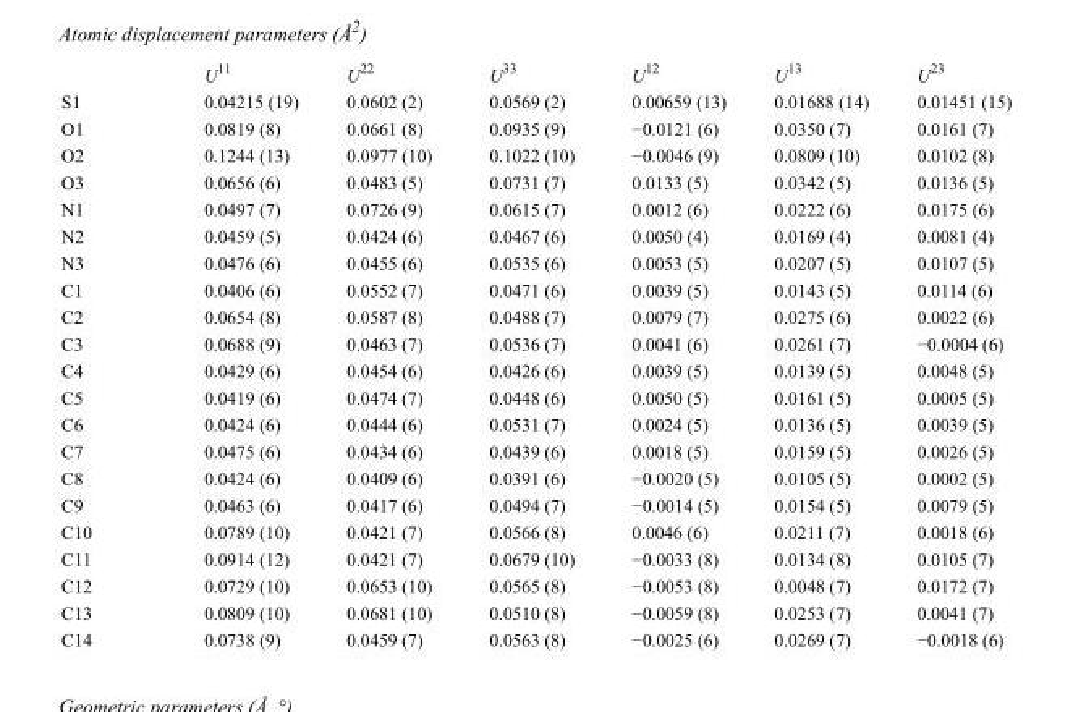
<table><thead><tr><td></td><td>U<sup>11</sup></td><td>U<sup>22</sup></td><td>U<sup>33</sup></td><td>U<sup>12</sup></td><td>U<sup>13</sup></td><td>U<sup>23</sup></td></tr></thead><tbody><tr><td>S1</td><td>0.04215 (19)</td><td>0.0602 (2)</td><td>0.0569 (2)</td><td>0.00659 (13)</td><td>0.01688 (14)</td><td>0.01451 (15)</td></tr><tr><td>O1</td><td>0.0819 (8)</td><td>0.0661 (8)</td><td>0.0935 (9)</td><td>−0.0121 (6)</td><td>0.0350 (7)</td><td>0.0161 (7)</td></tr><tr><td>O2</td><td>0.1244 (13)</td><td>0.0977 (10)</td><td>0.1022 (10)</td><td>−0.0046 (9)</td><td>0.0809 (10)</td><td>0.0102 (8)</td></tr><tr><td>O3</td><td>0.0656 (6)</td><td>0.0483 (5)</td><td>0.0731 (7)</td><td>0.0133 (5)</td><td>0.0342 (5)</td><td>0.0136 (5)</td></tr><tr><td>N1</td><td>0.0497 (7)</td><td>0.0726 (9)</td><td>0.0615 (7)</td><td>0.0012 (6)</td><td>0.0222 (6)</td><td>0.0175 (6)</td></tr><tr><td>N2</td><td>0.0459 (5)</td><td>0.0424 (6)</td><td>0.0467 (6)</td><td>0.0050 (4)</td><td>0.0169 (4)</td><td>0.0081 (4)</td></tr><tr><td>N3</td><td>0.0476 (6)</td><td>0.0455 (6)</td><td>0.0535 (6)</td><td>0.0053 (5)</td><td>0.0207 (5)</td><td>0.0107 (5)</td></tr><tr><td>C1</td><td>0.0406 (6)</td><td>0.0552 (7)</td><td>0.0471 (6)</td><td>0.0039 (5)</td><td>0.0143 (5)</td><td>0.0114 (6)</td></tr><tr><td>C2</td><td>0.0654 (8)</td><td>0.0587 (8)</td><td>0.0488 (7)</td><td>0.0079 (7)</td><td>0.0275 (6)</td><td>0.0022 (6)</td></tr><tr><td>C3</td><td>0.0688 (9)</td><td>0.0463 (7)</td><td>0.0536 (7)</td><td>0.0041 (6)</td><td>0.0261 (7)</td><td>−0.0004 (6)</td></tr><tr><td>C4</td><td>0.0429 (6)</td><td>0.0454 (6)</td><td>0.0426 (6)</td><td>0.0039 (5)</td><td>0.0139 (5)</td><td>0.0048 (5)</td></tr><tr><td>C5</td><td>0.0419 (6)</td><td>0.0474 (7)</td><td>0.0448 (6)</td><td>0.0050 (5)</td><td>0.0161 (5)</td><td>0.0005 (5)</td></tr><tr><td>C6</td><td>0.0424 (6)</td><td>0.0444 (6)</td><td>0.0531 (7)</td><td>0.0024 (5)</td><td>0.0136 (5)</td><td>0.0039 (5)</td></tr><tr><td>C7</td><td>0.0475 (6)</td><td>0.0434 (6)</td><td>0.0439 (6)</td><td>0.0018 (5)</td><td>0.0159 (5)</td><td>0.0026 (5)</td></tr><tr><td>C8</td><td>0.0424 (6)</td><td>0.0409 (6)</td><td>0.0391 (6)</td><td>−0.0020 (5)</td><td>0.0105 (5)</td><td>0.0002 (5)</td></tr><tr><td>C9</td><td>0.0463 (6)</td><td>0.0417 (6)</td><td>0.0494 (7)</td><td>−0.0014 (5)</td><td>0.0154 (5)</td><td>0.0079 (5)</td></tr><tr><td>C10</td><td>0.0789 (10)</td><td>0.0421 (7)</td><td>0.0566 (8)</td><td>0.0046 (6)</td><td>0.0211 (7)</td><td>0.0018 (6)</td></tr><tr><td>C11</td><td>0.0914 (12)</td><td>0.0421 (7)</td><td>0.0679 (10)</td><td>−0.0033 (8)</td><td>0.0134 (8)</td><td>0.0105 (7)</td></tr><tr><td>C12</td><td>0.0729 (10)</td><td>0.0653 (10)</td><td>0.0565 (8)</td><td>−0.0053 (8)</td><td>0.0048 (7)</td><td>0.0172 (7)</td></tr><tr><td>C13</td><td>0.0809 (10)</td><td>0.0681 (10)</td><td>0.0510 (8)</td><td>−0.0059 (8)</td><td>0.0253 (7)</td><td>0.0041 (7)</td></tr><tr><td>C14</td><td>0.0738 (9)</td><td>0.0459 (7)</td><td>0.0563 (8)</td><td>−0.0025 (6)</td><td>0.0269 (7)</td><td>−0.0018 (6)</td></tr></tbody></table>